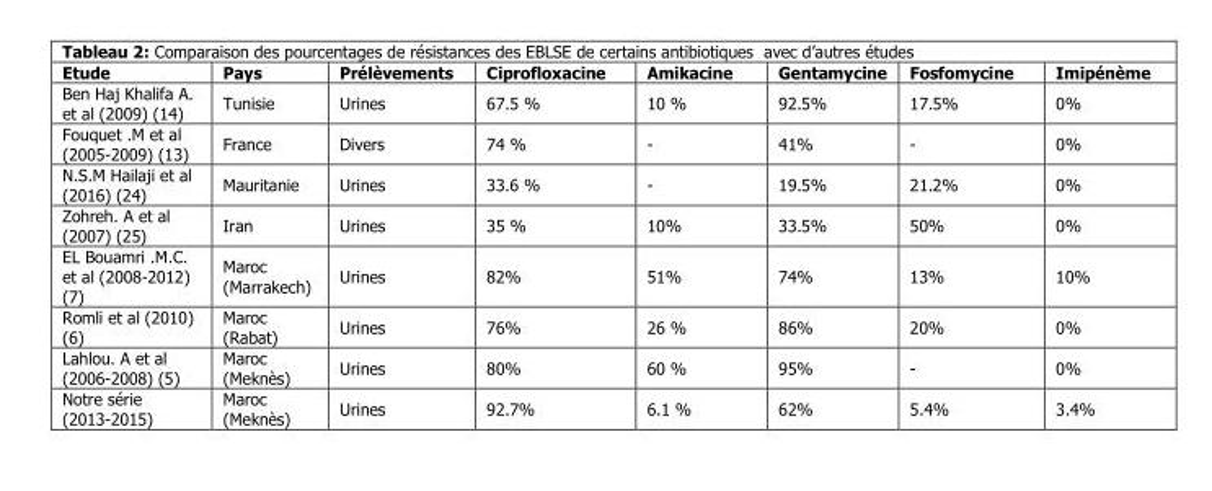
<table><thead><tr><td>Etude</td><td>Pays</td><td>Prélèvements</td><td>Ciprofloxacine</td><td>Amikacine</td><td>Gentamycine</td><td>Fosfomycine</td><td>Imipénème</td></tr></thead><tbody><tr><td>Ben Haj Khalifa A. et al (2009) (14)</td><td>Tunisie</td><td>Urines</td><td>67.5 %</td><td>10 %</td><td>92.5%</td><td>17.5%</td><td>0%</td></tr><tr><td>Fouquet .M et al (2005-2009) (13)</td><td>France</td><td>Divers</td><td>74 %</td><td>-</td><td>41%</td><td>-</td><td>0%</td></tr><tr><td>N.S.M Hailaji et al (2016) (24)</td><td>Mauritanie</td><td>Urines</td><td>33.6 %</td><td>-</td><td>19.5%</td><td>21.2%</td><td>0%</td></tr><tr><td>Zohreh. A et al (2007) (25)</td><td>Iran</td><td>Urines</td><td>35 %</td><td>10%</td><td>33.5%</td><td>50%</td><td>0%</td></tr><tr><td>EL Bouamri .M.C. et al (2008-2012) (7)</td><td>Maroc (Marrakech)</td><td>Urines</td><td>82%</td><td>51%</td><td>74%</td><td>13%</td><td>10%</td></tr><tr><td>Romli et al (2010) (6)</td><td>Maroc (Rabat)</td><td>Urines</td><td>76%</td><td>26 %</td><td>86%</td><td>20%</td><td>0%</td></tr><tr><td>Lahlou. A et al (2006-2008) (5)</td><td>Maroc (Meknès)</td><td>Urines</td><td>80%</td><td>60 %</td><td>95%</td><td>-</td><td>0%</td></tr><tr><td>Notre série (2013-2015)</td><td>Maroc (Meknès)</td><td>Urines</td><td>92.7%</td><td>6.1 %</td><td>62%</td><td>5.4%</td><td>3.4%</td></tr></tbody></table>